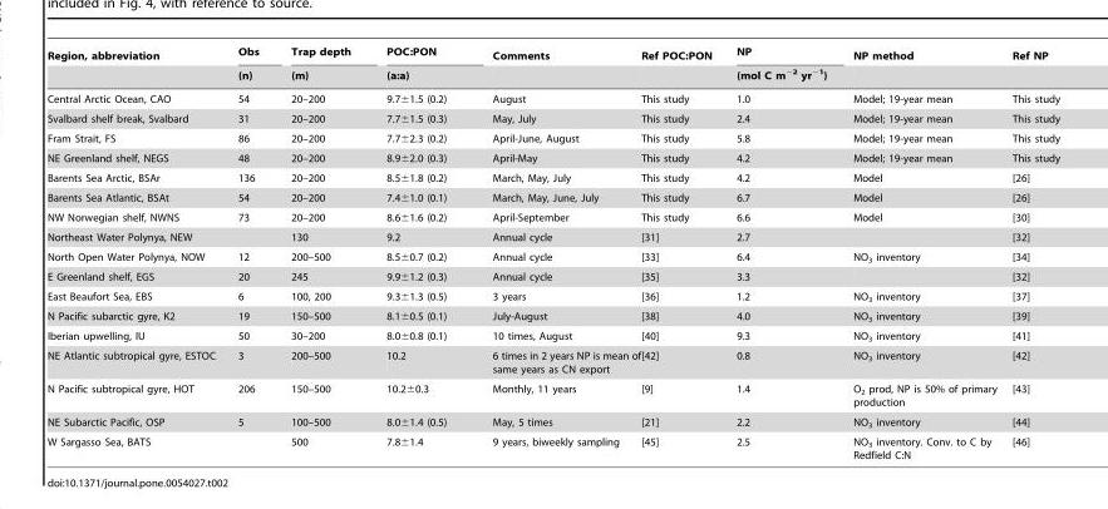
<table><thead><tr><td rowspan="2">Region, abbreviation</td><td rowspan="2">Obs (n)</td><td rowspan="2">Trap depth (m)</td><td rowspan="2">POC:PON (a:a)</td><td rowspan="2">Comments</td><td rowspan="2">Ref POC:PON</td><td rowspan="2">NP (mol C m<sup>−2</sup> yr<sup>−1</sup>)</td><td rowspan="2">NP method</td><td rowspan="2">Ref NP</td></tr><tr></tr></thead><tbody><tr><td>Central Arctic Ocean, CAO</td><td>54</td><td>20–200</td><td>9.7±1.5 (0.2)</td><td>August</td><td>This study</td><td>1.0</td><td>Model; 19-year mean</td><td>This study</td></tr><tr><td>Svalbard shelf break, Svalbard</td><td>31</td><td>20–200</td><td>7.7±1.5 (0.3)</td><td>May, July</td><td>This study</td><td>2.4</td><td>Model; 19-year mean</td><td>This study</td></tr><tr><td>Fram Strait, FS</td><td>86</td><td>20–200</td><td>7.7±2.3 (0.2)</td><td>April-June, August</td><td>This study</td><td>5.8</td><td>Model; 19-year mean</td><td>This study</td></tr><tr><td>NE Greenland shelf, NEGS</td><td>48</td><td>20–200</td><td>8.9±2.0 (0.3)</td><td>April-May</td><td>This study</td><td>4.2</td><td>Model; 19-year mean</td><td>This study</td></tr><tr><td>Barents Sea Arctic, BSAr</td><td>136</td><td>20–200</td><td>8.5±1.8 (0.2)</td><td>March, May, July</td><td>This study</td><td>4.2</td><td>Model</td><td>[26]</td></tr><tr><td>Barents Sea Atlantic, BSAt</td><td>54</td><td>20–200</td><td>7.4±1.0 (0.1)</td><td>March, May, June, July</td><td>This study</td><td>6.7</td><td>Model</td><td>[26]</td></tr><tr><td>NW Norwegian shelf, NWNS</td><td>73</td><td>20–200</td><td>8.6±1.6 (0.2)</td><td>April-September</td><td>This study</td><td>6.6</td><td>Model</td><td>[30]</td></tr><tr><td>Northeast Water Polynya, NEW</td><td></td><td>130</td><td>9.2</td><td>Annual cycle</td><td>[31]</td><td>2.7</td><td></td><td>[32]</td></tr><tr><td>North Open Water Polynya, NOW</td><td>12</td><td>200–500</td><td>8.5±0.7 (0.2)</td><td>Annual cycle</td><td>[33]</td><td>6.4</td><td>NO<sub>3</sub> inventory</td><td>[34]</td></tr><tr><td>E Greenland shelf, EGS</td><td>20</td><td>245</td><td>9.9±1.2 (0.3)</td><td>Annual cycle</td><td>[35]</td><td>3.3</td><td></td><td>[32]</td></tr><tr><td>East Beaufort Sea, EBS</td><td>6</td><td>100, 200</td><td>9.3±1.3 (0.5)</td><td>3 years</td><td>[36]</td><td>1.2</td><td>NO<sub>3</sub> inventory</td><td>[37]</td></tr><tr><td>N Pacific subarctic gyre, K2</td><td>19</td><td>150–500</td><td>8.1±0.5 (0.1)</td><td>July-August</td><td>[38]</td><td>4.0</td><td>NO<sub>3</sub> inventory</td><td>[39]</td></tr><tr><td>Iberian upwelling, IU</td><td>50</td><td>30–200</td><td>8.0±0.8 (0.1)</td><td>10 times, August</td><td>[40]</td><td>9.3</td><td>NO<sub>3</sub> inventory</td><td>[41]</td></tr><tr><td>NE Atlantic subtropical gyre, ESTOC</td><td>3</td><td>200–500</td><td>10.2</td><td>6 times in 2 years NP is mean of same years as CN export</td><td>[42]</td><td>0.8</td><td>NO<sub>3</sub> inventory</td><td>[42]</td></tr><tr><td>N Pacific subtropical gyre, HOT</td><td>206</td><td>150–500</td><td>10.2±0.3</td><td>Monthly, 11 years</td><td>[9]</td><td>1.4</td><td>O<sub>2</sub> prod, NP is 50% of primary production</td><td>[43]</td></tr><tr><td>NE Subarctic Pacific, OSP</td><td>5</td><td>100–500</td><td>8.0±1.4 (0.5)</td><td>May, 5 times</td><td>[21]</td><td>2.2</td><td>NO<sub>3</sub> inventory</td><td>[44]</td></tr><tr><td>W Sargasso Sea, BATS</td><td></td><td>500</td><td>7.8±1.4</td><td>9 years, biweekly sampling</td><td>[45]</td><td>2.5</td><td>NO<sub>3</sub> inventory. Conv. to C by Redfield C:N</td><td>[46]</td></tr></tbody></table>